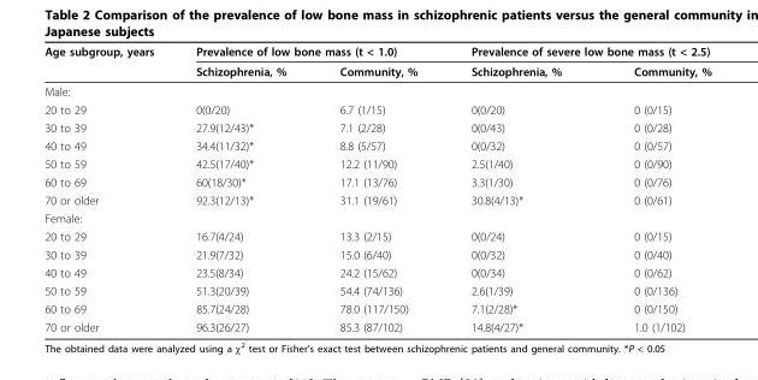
<table><thead><tr><td rowspan="2">Age subgroup, years</td><td colspan="2">Prevalence of low bone mass (t &lt; 1.0)</td><td colspan="2">Prevalence of severe low bone mass (t &lt; 2.5)</td></tr><tr><td>Schizophrenia, %</td><td>Community, %</td><td>Schizophrenia, %</td><td>Community, %</td></tr></thead><tbody><tr><td colspan="5">Male:</td></tr><tr><td>20 to 29</td><td>0(0/20)</td><td>6.7 (1/15)</td><td>0(0/20)</td><td>0 (0/15)</td></tr><tr><td>30 to 39</td><td>27.9(12/43)*</td><td>7.1 (2/28)</td><td>0(0/43)</td><td>0 (0/28)</td></tr><tr><td>40 to 49</td><td>34.4(11/32)*</td><td>8.8 (5/57)</td><td>0(0/32)</td><td>0 (0/57)</td></tr><tr><td>50 to 59</td><td>42.5(17/40)*</td><td>12.2 (11/90)</td><td>2.5(1/40)</td><td>0 (0/90)</td></tr><tr><td>60 to 69</td><td>60(18/30)*</td><td>17.1 (13/76)</td><td>3.3(1/30)</td><td>0 (0/76)</td></tr><tr><td>70 or older</td><td>92.3(12/13)*</td><td>31.1 (19/61)</td><td>30.8(4/13)*</td><td>0 (0/61)</td></tr><tr><td colspan="5">Female:</td></tr><tr><td>20 to 29</td><td>16.7(4/24)</td><td>13.3 (2/15)</td><td>0(0/24)</td><td>0 (0/15)</td></tr><tr><td>30 to 39</td><td>21.9(7/32)</td><td>15.0 (6/40)</td><td>0(0/32)</td><td>0 (0/40)</td></tr><tr><td>40 to 49</td><td>23.5(8/34)</td><td>24.2 (15/62)</td><td>0(0/34)</td><td>0 (0/62)</td></tr><tr><td>50 to 59</td><td>51.3(20/39)</td><td>54.4 (74/136)</td><td>2.6(1/39)</td><td>0 (0/136)</td></tr><tr><td>60 to 69</td><td>85.7(24/28)</td><td>78.0 (117/150)</td><td>7.1(2/28)*</td><td>0 (0/150)</td></tr><tr><td>70 or older</td><td>96.3(26/27)</td><td>85.3 (87/102)</td><td>14.8(4/27)*</td><td>1.0 (1/102)</td></tr></tbody></table>